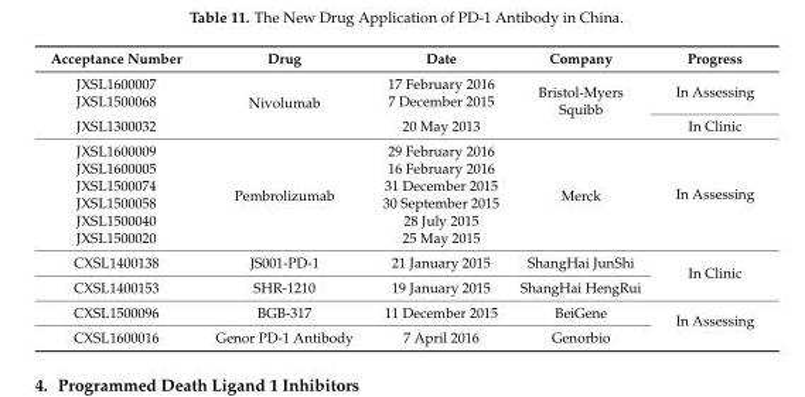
<table><thead><tr><td>Acceptance Number</td><td>Drug</td><td>Date</td><td>Company</td><td>Progress</td></tr></thead><tbody><tr><td>JXSL1600007</td><td rowspan="3">Nivolumab</td><td>17 February 2016</td><td rowspan="3">Bristol-Myers Squibb</td><td rowspan="2">In Assessing</td></tr><tr><td>JXSL1500068</td><td>7 December 2015</td></tr><tr><td>JXSL1300032</td><td>20 May 2013</td><td>In Clinic</td></tr><tr><td>JXSL1600009</td><td rowspan="6">Pembrolizumab</td><td>29 February 2016</td><td rowspan="6">Merck</td><td rowspan="6">In Assessing</td></tr><tr><td>JXSL1600005</td><td>16 February 2016</td></tr><tr><td>JXSL1500074</td><td>31 December 2015</td></tr><tr><td>JXSL1500058</td><td>30 September 2015</td></tr><tr><td>JXSL1500040</td><td>28 July 2015</td></tr><tr><td>JXSL1500020</td><td>25 May 2015</td></tr><tr><td>CXSL1400138</td><td>JS001-PD-1</td><td>21 January 2015</td><td>ShangHai JunShi</td><td rowspan="2">In Clinic</td></tr><tr><td>CXSL1400153</td><td>SHR-1210</td><td>19 January 2015</td><td>ShangHai HengRui</td></tr><tr><td>CXSL1500096</td><td>BGB-317</td><td>11 December 2015</td><td>BeiGene</td><td rowspan="2">In Assessing</td></tr><tr><td>CXSL1600016</td><td>Genor PD-1 Antibody</td><td>7 April 2016</td><td>Genorbio</td></tr></tbody></table>